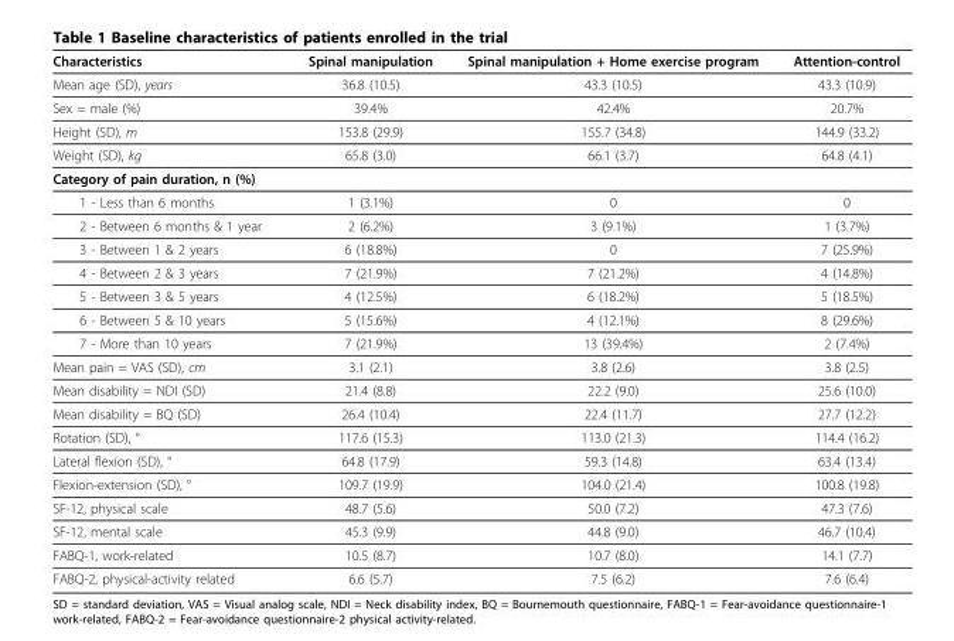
<table><thead><tr><td>Characteristics</td><td>Spinal manipulation</td><td>Spinal manipulation + Home exercise program</td><td>Attention-control</td></tr></thead><tbody><tr><td>Mean age (SD), years</td><td>36.8 (10.5)</td><td>43.3 (10.5)</td><td>43.3 (10.9)</td></tr><tr><td>Sex = male (%)</td><td>39.4%</td><td>42.4%</td><td>20.7%</td></tr><tr><td>Height (SD), m</td><td>153.8 (29.9)</td><td>155.7 (34.8)</td><td>144.9 (33.2)</td></tr><tr><td>Weight (SD), kg</td><td>65.8 (3.0)</td><td>66.1 (3.7)</td><td>64.8 (4.1)</td></tr><tr><td colspan="4">Category of pain duration, n (%)</td></tr><tr><td>1 - Less than 6 months</td><td>1 (3.1%)</td><td>0</td><td>0</td></tr><tr><td>2 - Between 6 months &amp; 1 year</td><td>2 (6.2%)</td><td>3 (9.1%)</td><td>1 (3.7%)</td></tr><tr><td>3 - Between 1 &amp; 2 years</td><td>6 (18.8%)</td><td>0</td><td>7 (25.9%)</td></tr><tr><td>4 - Between 2 &amp; 3 years</td><td>7 (21.9%)</td><td>7 (21.2%)</td><td>4 (14.8%)</td></tr><tr><td>5 - Between 3 &amp; 5 years</td><td>4 (12.5%)</td><td>6 (18.2%)</td><td>5 (18.5%)</td></tr><tr><td>6 - Between 5 &amp; 10 years</td><td>5 (15.6%)</td><td>4 (12.1%)</td><td>8 (29.6%)</td></tr><tr><td>7 - More than 10 years</td><td>7 (21.9%)</td><td>13 (39.4%)</td><td>2 (7.4%)</td></tr><tr><td>Mean pain = VAS (SD), cm</td><td>3.1 (2.1)</td><td>3.8 (2.6)</td><td>3.8 (2.5)</td></tr><tr><td>Mean disability = NDI (SD)</td><td>21.4 (8.8)</td><td>22.2 (9.0)</td><td>25.6 (10.0)</td></tr><tr><td>Mean disability = BQ (SD)</td><td>26.4 (10.4)</td><td>22.4 (11.7)</td><td>27.7 (12.2)</td></tr><tr><td>Rotation (SD), °</td><td>117.6 (15.3)</td><td>113.0 (21.3)</td><td>114.4 (16.2)</td></tr><tr><td>Lateral flexion (SD), °</td><td>64.8 (17.9)</td><td>59.3 (14.8)</td><td>63.4 (13.4)</td></tr><tr><td>Flexion-extension (SD), °</td><td>109.7 (19.9)</td><td>104.0 (21.4)</td><td>100.8 (19.8)</td></tr><tr><td>SF-12, physical scale</td><td>48.7 (5.6)</td><td>50.0 (7.2)</td><td>47.3 (7.6)</td></tr><tr><td>SF-12, mental scale</td><td>45.3 (9.9)</td><td>44.8 (9.0)</td><td>46.7 (10.4)</td></tr><tr><td>FABQ-1, work-related</td><td>10.5 (8.7)</td><td>10.7 (8.0)</td><td>14.1 (7.7)</td></tr><tr><td>FABQ-2, physical-activity related</td><td>6.6 (5.7)</td><td>7.5 (6.2)</td><td>7.6 (6.4)</td></tr></tbody></table>